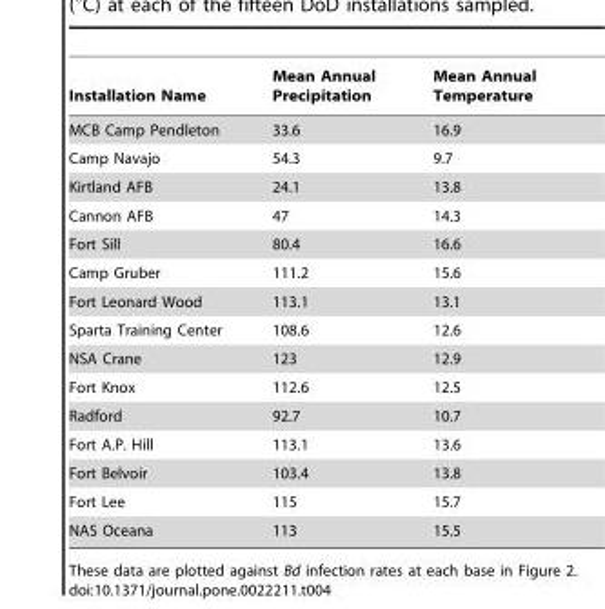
<table><thead><tr><td>Installation Name</td><td>Mean Annual Precipitation</td><td>Mean Annual Temperature</td></tr></thead><tbody><tr><td>MCB Camp Pendleton</td><td>33.6</td><td>16.9</td></tr><tr><td>Camp Navajo</td><td>54.3</td><td>9.7</td></tr><tr><td>Kirtland AFB</td><td>24.1</td><td>13.8</td></tr><tr><td>Cannon AFB</td><td>47</td><td>14.3</td></tr><tr><td>Fort Sill</td><td>80.4</td><td>16.6</td></tr><tr><td>Camp Gruber</td><td>111.2</td><td>15.6</td></tr><tr><td>Fort Leonard Wood</td><td>113.1</td><td>13.1</td></tr><tr><td>Sparta Training Center</td><td>108.6</td><td>12.6</td></tr><tr><td>NSA Crane</td><td>123</td><td>12.9</td></tr><tr><td>Fort Knox</td><td>112.6</td><td>12.5</td></tr><tr><td>Radford</td><td>92.7</td><td>10.7</td></tr><tr><td>Fort A.P. Hill</td><td>113.1</td><td>13.6</td></tr><tr><td>Fort Belvoir</td><td>103.4</td><td>13.8</td></tr><tr><td>Fort Lee</td><td>115</td><td>15.7</td></tr><tr><td>NAS Oceana</td><td>113</td><td>15.5</td></tr></tbody></table>